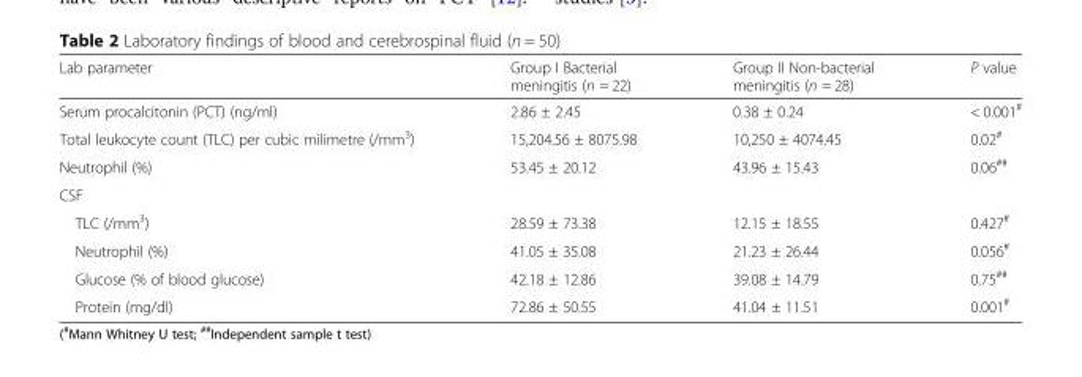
<table><thead><tr><td>Lab parameter</td><td>Group I Bacterial meningitis (n = 22)</td><td>Group II Non-bacterial meningitis (n = 28)</td><td>P value</td></tr></thead><tbody><tr><td>Serum procalcitonin (PCT) (ng/ml)</td><td>2.86 ± 2.45</td><td>0.38 ± 0.24</td><td>&lt; 0.001<sup>#</sup></td></tr><tr><td>Total leukocyte count (TLC) per cubic milimetre (/mm<sup>3</sup>)</td><td>15,204.56 ± 8075.98</td><td>10,250 ± 4074.45</td><td>0.02<sup>#</sup></td></tr><tr><td>Neutrophil (%)</td><td>53.45 ± 20.12</td><td>43.96 ± 15.43</td><td>0.06<sup>##</sup></td></tr><tr><td colspan="4">CSF</td></tr><tr><td>TLC (/mm<sup>3</sup>)</td><td>28.59 ± 73.38</td><td>12.15 ± 18.55</td><td>0.427<sup>#</sup></td></tr><tr><td>Neutrophil (%)</td><td>41.05 ± 35.08</td><td>21.23 ± 26.44</td><td>0.056<sup>#</sup></td></tr><tr><td>Glucose (% of blood glucose)</td><td>42.18 ± 12.86</td><td>39.08 ± 14.79</td><td>0.75<sup>##</sup></td></tr><tr><td>Protein (mg/dl)</td><td>72.86 ± 50.55</td><td>41.04 ± 11.51</td><td>0.001<sup>#</sup></td></tr></tbody></table>